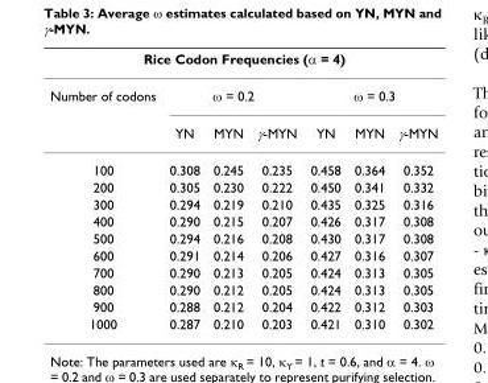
<table><thead><tr><td colspan="7">Rice Codon Frequencies (α = 4)</td></tr><tr><td rowspan="2">Number of codons</td><td colspan="3">ω = 0.2</td><td colspan="3">ω = 0.3</td></tr><tr><td>YN</td><td>MYN</td><td>γ-MYN</td><td>YN</td><td>MYN</td><td>γ-MYN</td></tr></thead><tbody><tr><td>100</td><td>0.308</td><td>0.245</td><td>0.235</td><td>0.458</td><td>0.364</td><td>0.352</td></tr><tr><td>200</td><td>0.305</td><td>0.230</td><td>0.222</td><td>0.450</td><td>0.341</td><td>0.332</td></tr><tr><td>300</td><td>0.294</td><td>0.219</td><td>0.210</td><td>0.435</td><td>0.325</td><td>0.316</td></tr><tr><td>400</td><td>0.290</td><td>0.215</td><td>0.207</td><td>0.426</td><td>0.317</td><td>0.308</td></tr><tr><td>500</td><td>0.294</td><td>0.216</td><td>0.208</td><td>0.430</td><td>0.317</td><td>0.308</td></tr><tr><td>600</td><td>0.291</td><td>0.214</td><td>0.206</td><td>0.427</td><td>0.316</td><td>0.307</td></tr><tr><td>700</td><td>0.290</td><td>0.213</td><td>0.205</td><td>0.424</td><td>0.313</td><td>0.305</td></tr><tr><td>800</td><td>0.290</td><td>0.212</td><td>0.205</td><td>0.424</td><td>0.313</td><td>0.305</td></tr><tr><td>900</td><td>0.288</td><td>0.212</td><td>0.204</td><td>0.422</td><td>0.312</td><td>0.303</td></tr><tr><td>1000</td><td>0.287</td><td>0.210</td><td>0.203</td><td>0.421</td><td>0.310</td><td>0.302</td></tr></tbody></table>